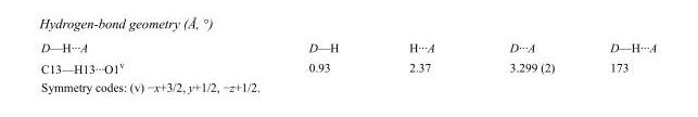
<table><tbody><tr><td>D—H···A</td><td>D—H</td><td>H···A</td><td>D···A</td><td>D—H···A</td></tr><tr><td>C13—H13···O1<sup>v</sup></td><td>0.93</td><td>2.37</td><td>3.299 (2)</td><td>173</td></tr></tbody></table>